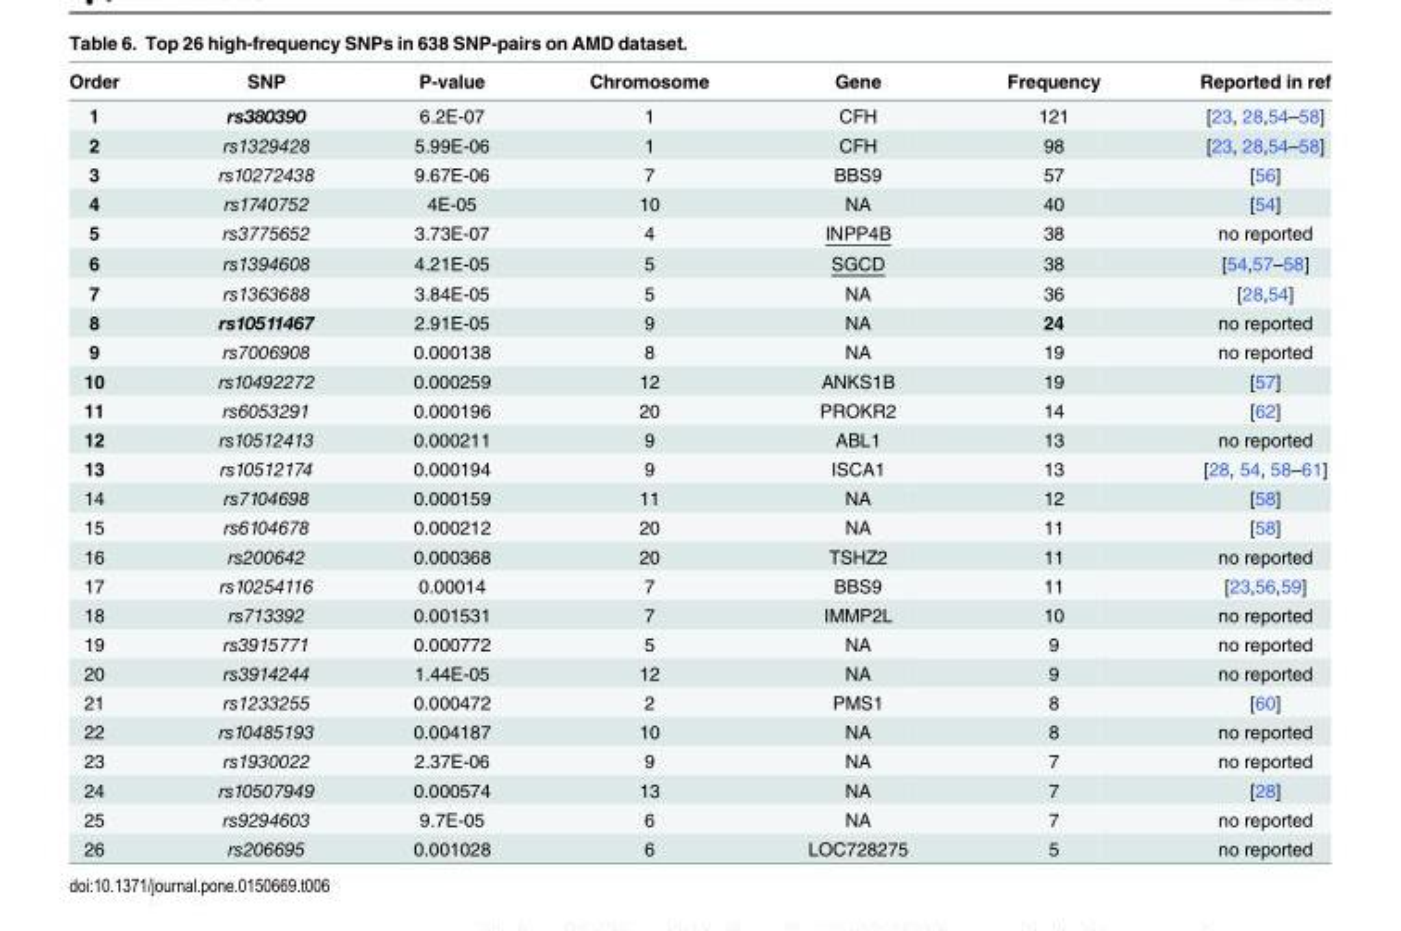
<table><thead><tr><td>Order</td><td>SNP</td><td>P-value</td><td>Chromosome</td><td>Gene</td><td>Frequency</td><td>Reported in ref</td></tr></thead><tbody><tr><td>1</td><td>rs380390</td><td>6.2E-07</td><td>1</td><td>CFH</td><td>121</td><td>[23, 28,54–58]</td></tr><tr><td>2</td><td>rs1329428</td><td>5.99E-06</td><td>1</td><td>CFH</td><td>98</td><td>[23, 28,54–58]</td></tr><tr><td>3</td><td>rs10272438</td><td>9.67E-06</td><td>7</td><td>BBS9</td><td>57</td><td>[56]</td></tr><tr><td>4</td><td>rs1740752</td><td>4E-05</td><td>10</td><td>NA</td><td>40</td><td>[54]</td></tr><tr><td>5</td><td>rs3775652</td><td>3.73E-07</td><td>4</td><td>INPP4B</td><td>38</td><td>no reported</td></tr><tr><td>6</td><td>rs1394608</td><td>4.21E-05</td><td>5</td><td>SGCD</td><td>38</td><td>[54,57–58]</td></tr><tr><td>7</td><td>rs1363688</td><td>3.84E-05</td><td>5</td><td>NA</td><td>36</td><td>[28,54]</td></tr><tr><td>8</td><td>rs10511467</td><td>2.91E-05</td><td>9</td><td>NA</td><td>24</td><td>no reported</td></tr><tr><td>9</td><td>rs7006908</td><td>0.000138</td><td>8</td><td>NA</td><td>19</td><td>no reported</td></tr><tr><td>10</td><td>rs10492272</td><td>0.000259</td><td>12</td><td>ANKS1B</td><td>19</td><td>[57]</td></tr><tr><td>11</td><td>rs6053291</td><td>0.000196</td><td>20</td><td>PROKR2</td><td>14</td><td>[62]</td></tr><tr><td>12</td><td>rs10512413</td><td>0.000211</td><td>9</td><td>ABL1</td><td>13</td><td>no reported</td></tr><tr><td>13</td><td>rs10512174</td><td>0.000194</td><td>9</td><td>ISCA1</td><td>13</td><td>[28, 54, 58–61]</td></tr><tr><td>14</td><td>rs7104698</td><td>0.000159</td><td>11</td><td>NA</td><td>12</td><td>[58]</td></tr><tr><td>15</td><td>rs6104678</td><td>0.000212</td><td>20</td><td>NA</td><td>11</td><td>[58]</td></tr><tr><td>16</td><td>rs200642</td><td>0.000368</td><td>20</td><td>TSHZ2</td><td>11</td><td>no reported</td></tr><tr><td>17</td><td>rs10254116</td><td>0.00014</td><td>7</td><td>BBS9</td><td>11</td><td>[23,56,59]</td></tr><tr><td>18</td><td>rs713392</td><td>0.001531</td><td>7</td><td>IMMP2L</td><td>10</td><td>no reported</td></tr><tr><td>19</td><td>rs3915771</td><td>0.000772</td><td>5</td><td>NA</td><td>9</td><td>no reported</td></tr><tr><td>20</td><td>rs3914244</td><td>1.44E-05</td><td>12</td><td>NA</td><td>9</td><td>no reported</td></tr><tr><td>21</td><td>rs1233255</td><td>0.000472</td><td>2</td><td>PMS1</td><td>8</td><td>[60]</td></tr><tr><td>22</td><td>rs10485193</td><td>0.004187</td><td>10</td><td>NA</td><td>8</td><td>no reported</td></tr><tr><td>23</td><td>rs1930022</td><td>2.37E-06</td><td>9</td><td>NA</td><td>7</td><td>no reported</td></tr><tr><td>24</td><td>rs10507949</td><td>0.000574</td><td>13</td><td>NA</td><td>7</td><td>[28]</td></tr><tr><td>25</td><td>rs9294603</td><td>9.7E-05</td><td>6</td><td>NA</td><td>7</td><td>no reported</td></tr><tr><td>26</td><td>rs206695</td><td>0.001028</td><td>6</td><td>LOC728275</td><td>5</td><td>no reported</td></tr></tbody></table>